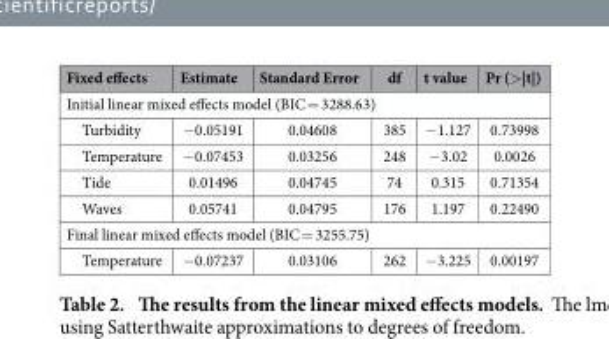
<table><thead><tr><td>Fixed effects</td><td>Estimate</td><td>Standard Error</td><td>df</td><td>t value</td><td>Pr (&gt; |t|)</td></tr><tr><td colspan="6">Initial linear mixed effects model (BIC = 3288.63)</td></tr></thead><tbody><tr><td>Turbidity</td><td>− 0.05191</td><td>0.04608</td><td>385</td><td>− 1.127</td><td>0.73998</td></tr><tr><td>Temperature</td><td>− 0.07453</td><td>0.03256</td><td>248</td><td>− 3.02</td><td>0.0026</td></tr><tr><td>Tide</td><td>0.01496</td><td>0.04745</td><td>74</td><td>0.315</td><td>0.71354</td></tr><tr><td>Waves</td><td>0.05741</td><td>0.04795</td><td>176</td><td>1.197</td><td>0.22490</td></tr><tr><td colspan="6">Final linear mixed effects model (BIC = 3255.75)</td></tr><tr><td>Temperature</td><td>− 0.07237</td><td>0.03106</td><td>262</td><td>− 3.225</td><td>0.00197</td></tr></tbody></table>